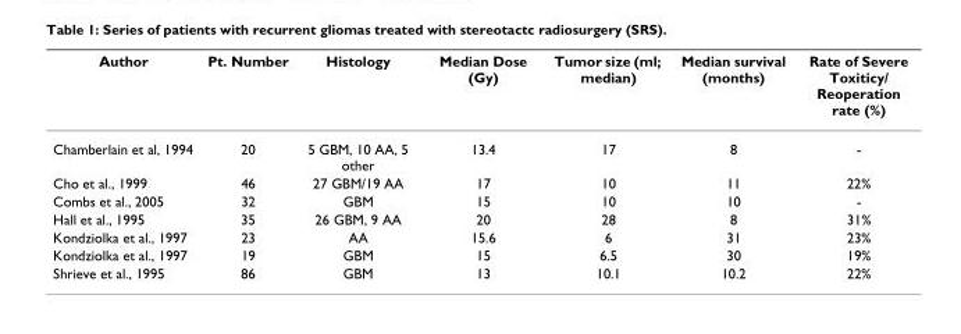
<table><thead><tr><td>Author</td><td>Pt. Number</td><td>Histology</td><td>Median Dose (Gy)</td><td>Tumor size (ml; median)</td><td>Median survival (months)</td><td>Rate of Severe Toxiticy/ Reoperation rate (%)</td></tr></thead><tbody><tr><td>Chamberlain et al, 1994</td><td>20</td><td>5 GBM, 10 AA, 5 other</td><td>13.4</td><td>17</td><td>8</td><td>-</td></tr><tr><td>Cho et al., 1999</td><td>46</td><td>27 GBM/19 AA</td><td>17</td><td>10</td><td>11</td><td>22%</td></tr><tr><td>Combs et al., 2005</td><td>32</td><td>GBM</td><td>15</td><td>10</td><td>10</td><td>-</td></tr><tr><td>Hall et al., 1995</td><td>35</td><td>26 GBM, 9 AA</td><td>20</td><td>28</td><td>8</td><td>31%</td></tr><tr><td>Kondziolka et al., 1997</td><td>23</td><td>AA</td><td>15.6</td><td>6</td><td>31</td><td>23%</td></tr><tr><td>Kondziolka et al., 1997</td><td>19</td><td>GBM</td><td>15</td><td>6.5</td><td>30</td><td>19%</td></tr><tr><td>Shrieve et al., 1995</td><td>86</td><td>GBM</td><td>13</td><td>10.1</td><td>10.2</td><td>22%</td></tr></tbody></table>